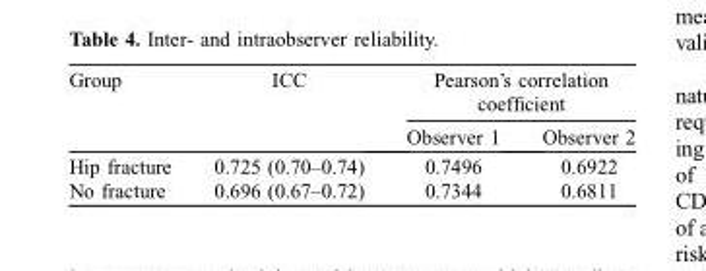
<table><thead><tr><td rowspan="2">Group</td><td rowspan="2">ICC</td><td colspan="2">Pearson’s correlation coefficient</td></tr><tr><td>Observer 1</td><td>Observer 2</td></tr></thead><tbody><tr><td>Hip fracture</td><td>0.725 (0.70–0.74)</td><td>0.7496</td><td>0.6922</td></tr><tr><td>No fracture</td><td>0.696 (0.67–0.72)</td><td>0.7344</td><td>0.6811</td></tr></tbody></table>